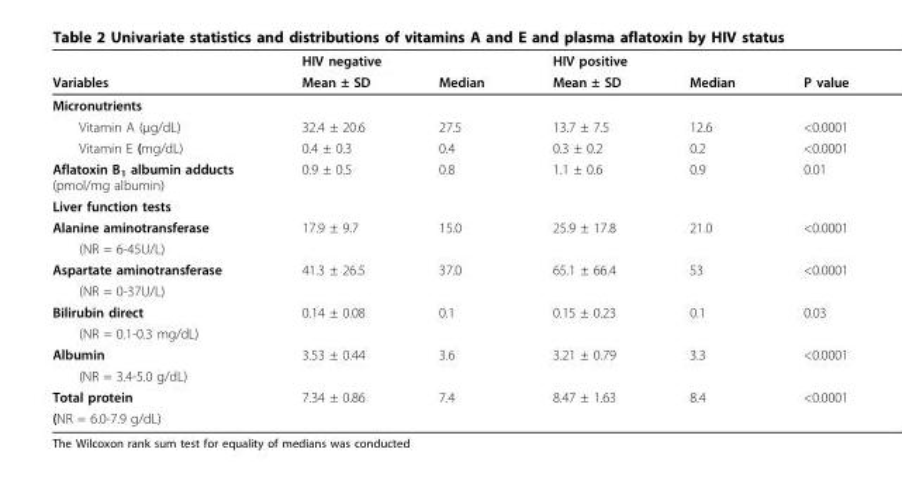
<table><thead><tr><td rowspan="2">Variables</td><td colspan="2">HIV negative</td><td colspan="2">HIV positive</td><td rowspan="2">P value</td></tr><tr><td>Mean ± SD</td><td>Median</td><td>Mean ± SD</td><td>Median</td></tr></thead><tbody><tr><td colspan="6">Micronutrients</td></tr><tr><td>Vitamin A (µg/dL)</td><td>32.4 ± 20.6</td><td>27.5</td><td>13.7 ± 7.5</td><td>12.6</td><td>&lt;0.0001</td></tr><tr><td>Vitamin E (mg/dL)</td><td>0.4 ± 0.3</td><td>0.4</td><td>0.3 ± 0.2</td><td>0.2</td><td>&lt;0.0001</td></tr><tr><td>Aflatoxin B<sub>1</sub> albumin adducts (pmol/mg albumin)</td><td>0.9 ± 0.5</td><td>0.8</td><td>1.1 ± 0.6</td><td>0.9</td><td>0.01</td></tr><tr><td colspan="6">Liver function tests</td></tr><tr><td>Alanine aminotransferase</td><td>17.9 ± 9.7</td><td>15.0</td><td>25.9 ± 17.8</td><td>21.0</td><td>&lt;0.0001</td></tr><tr><td colspan="6">(NR = 6-45U/L)</td></tr><tr><td>Aspartate aminotransferase</td><td>41.3 ± 26.5</td><td>37.0</td><td>65.1 ± 66.4</td><td>53</td><td>&lt;0.0001</td></tr><tr><td colspan="6">(NR = 0-37U/L)</td></tr><tr><td>Bilirubin direct</td><td>0.14 ± 0.08</td><td>0.1</td><td>0.15 ± 0.23</td><td>0.1</td><td>0.03</td></tr><tr><td colspan="6">(NR = 0.1-0.3 mg/dL)</td></tr><tr><td>Albumin</td><td>3.53 ± 0.44</td><td>3.6</td><td>3.21 ± 0.79</td><td>3.3</td><td>&lt;0.0001</td></tr><tr><td colspan="6">(NR = 3.4-5.0 g/dL)</td></tr><tr><td>Total protein</td><td>7.34 ± 0.86</td><td>7.4</td><td>8.47 ± 1.63</td><td>8.4</td><td>&lt;0.0001</td></tr><tr><td>(NR = 6.0-7.9 g/dL)</td><td></td><td></td><td></td><td></td><td></td></tr></tbody></table>